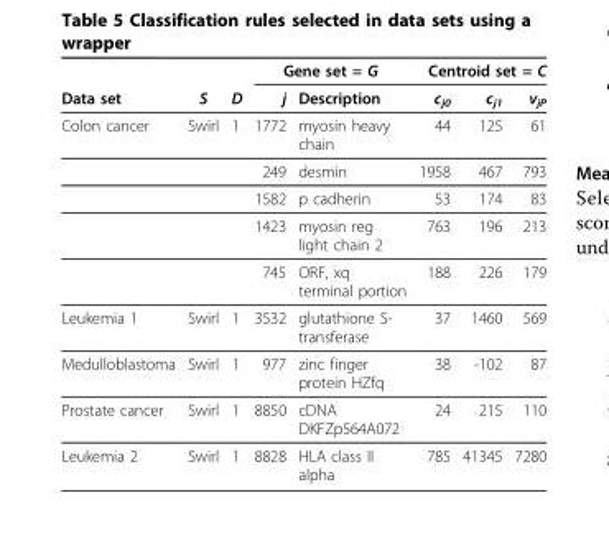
<table><thead><tr><td rowspan="2">Data set</td><td rowspan="2">S</td><td rowspan="2">D</td><td colspan="2">Gene set = G</td><td colspan="3">Centroid set = C</td></tr><tr><td>j</td><td>Description</td><td>c<sub>j0</sub></td><td>c<sub>j1</sub></td><td>v<sub>jP</sub></td></tr></thead><tbody><tr><td rowspan="5">Colon cancer</td><td>Swirl</td><td>1</td><td>1772</td><td>myosin heavy chain</td><td>44</td><td>125</td><td>61</td></tr><tr><td></td><td></td><td>249</td><td>desmin</td><td>1958</td><td>467</td><td>793</td></tr><tr><td></td><td></td><td>1582</td><td>p cadherin</td><td>53</td><td>174</td><td>83</td></tr><tr><td></td><td></td><td>1423</td><td>myosin reg light chain 2</td><td>763</td><td>196</td><td>213</td></tr><tr><td></td><td></td><td>745</td><td>ORF, xq terminal portion</td><td>188</td><td>226</td><td>179</td></tr><tr><td>Leukemia 1</td><td>Swirl</td><td>1</td><td>3532</td><td>glutathione S- transferase</td><td>37</td><td>1460</td><td>569</td></tr><tr><td>Medulloblastoma</td><td>Swirl</td><td>1</td><td>977</td><td>zinc finger protein HZfq</td><td>38</td><td>-102</td><td>87</td></tr><tr><td>Prostate cancer</td><td>Swirl</td><td>1</td><td>8850</td><td>cDNA DKFZp564A072</td><td>24</td><td>215</td><td>110</td></tr><tr><td>Leukemia 2</td><td>Swirl</td><td>1</td><td>8828</td><td>HLA class II alpha</td><td>785</td><td>41345</td><td>7280</td></tr></tbody></table>